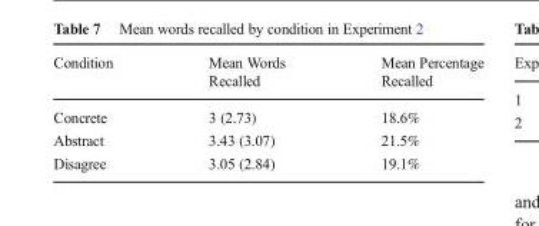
<table><thead><tr><td>Condition</td><td>Mean Words Recalled</td><td>Mean Percentage Recalled</td></tr></thead><tbody><tr><td>Concrete</td><td>3 (2.73)</td><td>18.6%</td></tr><tr><td>Abstract</td><td>3.43 (3.07)</td><td>21.5%</td></tr><tr><td>Disagree</td><td>3.05 (2.84)</td><td>19.1%</td></tr></tbody></table>